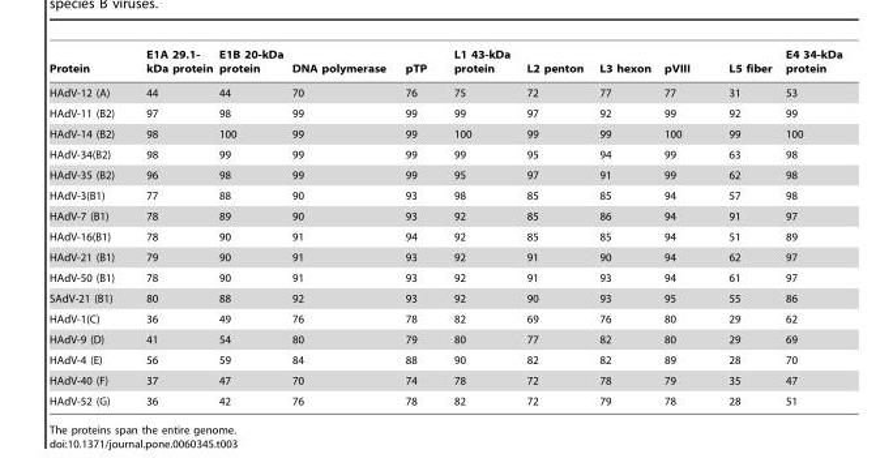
<table><thead><tr><td>Protein</td><td>E1A 29.1- kDa protein</td><td>E1B 20-kDa protein</td><td>DNA polymerase</td><td>pTP</td><td>L1 43-kDa protein</td><td>L2 penton</td><td>L3 hexon</td><td>pVIII</td><td>L5 fiber</td><td>E4 34-kDa protein</td></tr></thead><tbody><tr><td>HAdV-12 (A)</td><td>44</td><td>44</td><td>70</td><td>76</td><td>75</td><td>72</td><td>77</td><td>77</td><td>31</td><td>53</td></tr><tr><td>HAdV-11 (B2)</td><td>97</td><td>98</td><td>99</td><td>99</td><td>99</td><td>97</td><td>92</td><td>99</td><td>92</td><td>99</td></tr><tr><td>HAdV-14 (B2)</td><td>98</td><td>100</td><td>99</td><td>99</td><td>100</td><td>99</td><td>99</td><td>100</td><td>99</td><td>100</td></tr><tr><td>HAdV-34(B2)</td><td>98</td><td>99</td><td>99</td><td>99</td><td>99</td><td>95</td><td>94</td><td>99</td><td>63</td><td>98</td></tr><tr><td>HAdV-35 (B2)</td><td>96</td><td>98</td><td>99</td><td>99</td><td>95</td><td>97</td><td>91</td><td>99</td><td>62</td><td>98</td></tr><tr><td>HAdV-3(B1)</td><td>77</td><td>88</td><td>90</td><td>93</td><td>98</td><td>85</td><td>85</td><td>94</td><td>57</td><td>98</td></tr><tr><td>HAdV-7 (B1)</td><td>78</td><td>89</td><td>90</td><td>93</td><td>92</td><td>85</td><td>86</td><td>94</td><td>91</td><td>97</td></tr><tr><td>HAdV-16(B1)</td><td>78</td><td>90</td><td>91</td><td>94</td><td>92</td><td>85</td><td>85</td><td>94</td><td>51</td><td>89</td></tr><tr><td>HAdV-21 (B1)</td><td>79</td><td>90</td><td>91</td><td>93</td><td>92</td><td>91</td><td>90</td><td>94</td><td>62</td><td>97</td></tr><tr><td>HAdV-50 (B1)</td><td>78</td><td>90</td><td>91</td><td>93</td><td>92</td><td>91</td><td>93</td><td>94</td><td>61</td><td>97</td></tr><tr><td>SAdV-21 (B1)</td><td>80</td><td>88</td><td>92</td><td>93</td><td>92</td><td>90</td><td>93</td><td>95</td><td>55</td><td>86</td></tr><tr><td>HAdV-1(C)</td><td>36</td><td>49</td><td>76</td><td>78</td><td>82</td><td>69</td><td>76</td><td>80</td><td>29</td><td>62</td></tr><tr><td>HAdV-9 (D)</td><td>41</td><td>54</td><td>80</td><td>79</td><td>80</td><td>77</td><td>82</td><td>80</td><td>29</td><td>69</td></tr><tr><td>HAdV-4 (E)</td><td>56</td><td>59</td><td>84</td><td>88</td><td>90</td><td>82</td><td>82</td><td>89</td><td>28</td><td>70</td></tr><tr><td>HAdV-40 (F)</td><td>37</td><td>47</td><td>70</td><td>74</td><td>78</td><td>72</td><td>78</td><td>79</td><td>35</td><td>47</td></tr><tr><td>HAdV-52 (G)</td><td>36</td><td>42</td><td>76</td><td>78</td><td>82</td><td>72</td><td>79</td><td>78</td><td>28</td><td>51</td></tr></tbody></table>